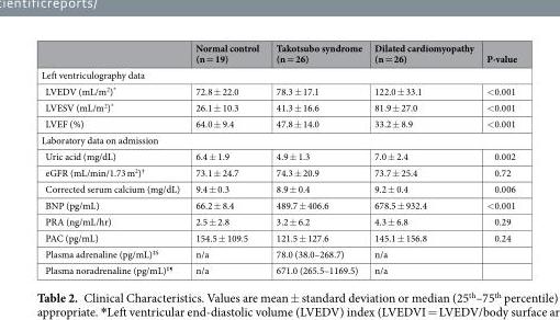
<table><thead><tr><td></td><td>Normal control (n = 19)</td><td>Takotsubo syndrome (n = 26)</td><td>Dilated cardiomyopathy (n = 26)</td><td>P-value</td></tr></thead><tbody><tr><td colspan="5">Left ventriculography data</td></tr><tr><td>LVEDV (mL/m<sup>2</sup>)*</td><td>72.8 ± 22.0</td><td>78.3 ± 17.1</td><td>122.0 ± 33.1</td><td>&lt;0.001</td></tr><tr><td>LVESV (mL/m<sup>2</sup>)*</td><td>26.1 ± 10.3</td><td>41.3 ± 16.6</td><td>81.9 ± 27.0</td><td>&lt;0.001</td></tr><tr><td>LVEF (%)</td><td>64.0 ± 9.4</td><td>47.8 ± 14.0</td><td>33.2 ± 8.9</td><td>&lt;0.001</td></tr><tr><td colspan="5">Laboratory data on admission</td></tr><tr><td>Uric acid (mg/dL)</td><td>6.4 ± 1.9</td><td>4.9 ± 1.3</td><td>7.0 ± 2.4</td><td>0.002</td></tr><tr><td>eGFR (mL/min/1.73 m<sup>2</sup>)<sup>†</sup></td><td>73.1 ± 24.7</td><td>74.3 ± 20.9</td><td>73.7 ± 25.4</td><td>0.72</td></tr><tr><td>Corrected serum calcium (mg/dL)</td><td>9.4 ± 0.3</td><td>8.9 ± 0.4</td><td>9.2 ± 0.4</td><td>0.006</td></tr><tr><td>BNP (pg/mL)</td><td>66.2 ± 8.4</td><td>489.7 ± 406.6</td><td>678.5 ± 932.4</td><td>&lt;0.001</td></tr><tr><td>PRA (ng/mL/hr)</td><td>2.5 ± 2.8</td><td>3.2 ± 6.2</td><td>4.3 ± 6.8</td><td>0.29</td></tr><tr><td>PAC (pg/mL)</td><td>154.5 ± 109.5</td><td>121.5 ± 127.6</td><td>145.1 ± 156.8</td><td>0.24</td></tr><tr><td>Plasma adrenaline (pg/mL)<sup>‡§</sup></td><td>n/a</td><td>78.0 (38.0–268.7)</td><td>n/a</td><td></td></tr><tr><td>Plasma noradrenaline (pg/mL)<sup>‡¶</sup></td><td>n/a</td><td>671.0 (265.5–1169.5)</td><td>n/a</td><td></td></tr></tbody></table>